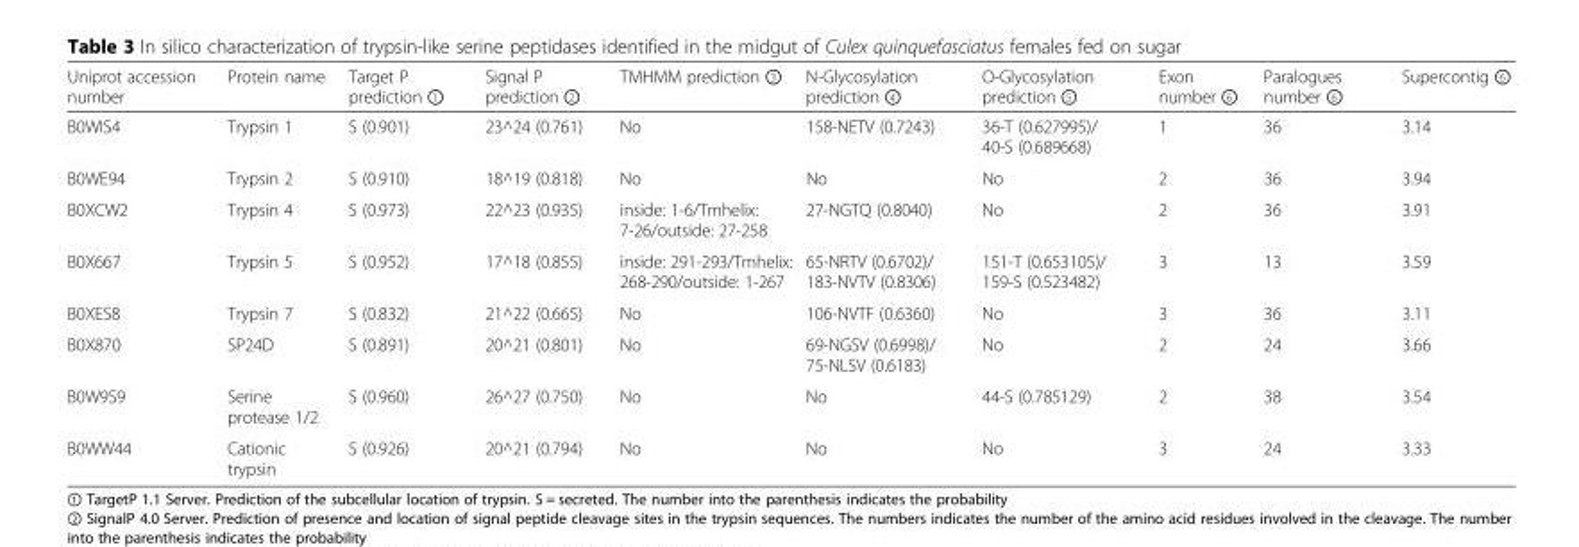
<table><thead><tr><td>Uniprot accession number</td><td>Protein name</td><td>Target P prediction ①</td><td>Signal P prediction ②</td><td>TMHMM prediction ③</td><td>N-Glycosylation prediction ④</td><td>O-Glycosylation prediction ⑤</td><td>Exon number ⑥</td><td>Paralogues number ⑥</td><td>Supercontig ⑥</td></tr></thead><tbody><tr><td>B0WIS4</td><td>Trypsin 1</td><td>S (0.901)</td><td>23^24 (0.761)</td><td>No</td><td>158-NETV (0.7243)</td><td>36-T (0.627995)/ 40-S (0.689668)</td><td>1</td><td>36</td><td>3.14</td></tr><tr><td>B0WE94</td><td>Trypsin 2</td><td>S (0.910)</td><td>18^19 (0.818)</td><td>No</td><td>No</td><td>No</td><td>2</td><td>36</td><td>3.94</td></tr><tr><td>B0XCW2</td><td>Trypsin 4</td><td>S (0.973)</td><td>22^23 (0.935)</td><td>inside: 1-6/Tmhelix: 7-26/outside: 27-258</td><td>27-NGTQ (0.8040)</td><td>No</td><td>2</td><td>36</td><td>3.91</td></tr><tr><td>B0X667</td><td>Trypsin 5</td><td>S (0.952)</td><td>17^18 (0.855)</td><td>inside: 291-293/Tmhelix: 268-290/outside: 1-267</td><td>65-NRTV (0.6702)/ 183-NVTV (0.8306)</td><td>151-T (0.653105)/ 159-S (0.523482)</td><td>3</td><td>13</td><td>3.59</td></tr><tr><td>B0XES8</td><td>Trypsin 7</td><td>S (0.832)</td><td>21^22 (0.665)</td><td>No</td><td>106-NVTF (0.6360)</td><td>No</td><td>3</td><td>36</td><td>3.11</td></tr><tr><td>B0X870</td><td>SP24D</td><td>S (0.891)</td><td>20^21 (0.801)</td><td>No</td><td>69-NGSV (0.6998)/ 75-NLSV (0.6183)</td><td>No</td><td>2</td><td>24</td><td>3.66</td></tr><tr><td>B0W9S9</td><td>Serine protease 1/2</td><td>S (0.960)</td><td>26^27 (0.750)</td><td>No</td><td>No</td><td>44-S (0.785129)</td><td>2</td><td>38</td><td>3.54</td></tr><tr><td>B0WW44</td><td>Cationic trypsin</td><td>S (0.926)</td><td>20^21 (0.794)</td><td>No</td><td>No</td><td>No</td><td>3</td><td>24</td><td>3.33</td></tr></tbody></table>